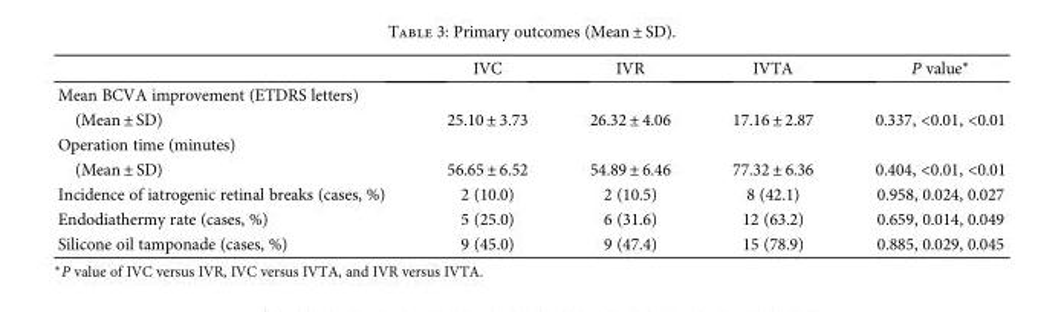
<table><thead><tr><td></td><td>IVC</td><td>IVR</td><td>IVTA</td><td>P value∗</td></tr></thead><tbody><tr><td colspan="5">Mean BCVA improvement (ETDRS letters)</td></tr><tr><td>(Mean ± SD)</td><td>25.10 ± 3.73</td><td>26.32 ± 4.06</td><td>17.16 ± 2.87</td><td>0.337, &lt;0.01, &lt;0.01</td></tr><tr><td colspan="5">Operation time (minutes)</td></tr><tr><td>(Mean ± SD)</td><td>56.65 ± 6.52</td><td>54.89 ± 6.46</td><td>77.32 ± 6.36</td><td>0.404, &lt;0.01, &lt;0.01</td></tr><tr><td>Incidence of iatrogenic retinal breaks (cases, %)</td><td>2 (10.0)</td><td>2 (10.5)</td><td>8 (42.1)</td><td>0.958, 0.024, 0.027</td></tr><tr><td>Endodiathermy rate (cases, %)</td><td>5 (25.0)</td><td>6 (31.6)</td><td>12 (63.2)</td><td>0.659, 0.014, 0.049</td></tr><tr><td>Silicone oil tamponade (cases, %)</td><td>9 (45.0)</td><td>9 (47.4)</td><td>15 (78.9)</td><td>0.885, 0.029, 0.045</td></tr></tbody></table>